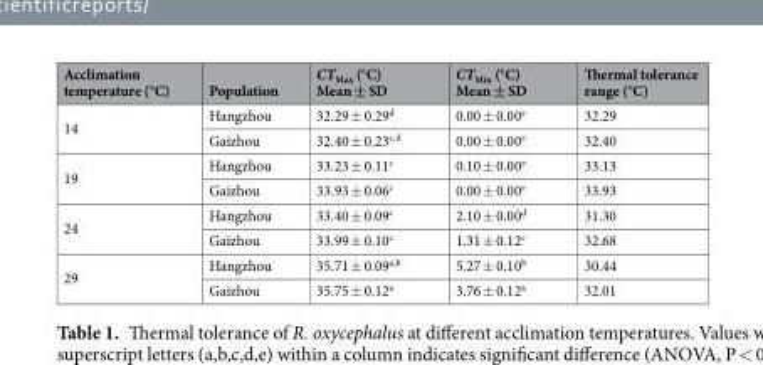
<table><thead><tr><td>Acclimation temperature (°C)</td><td>Population</td><td>CT<sub>Max</sub> (°C) Mean ± SD</td><td>CT<sub>Min</sub> (°C) Mean ± SD</td><td>Thermal tolerance range (°C)</td></tr></thead><tbody><tr><td rowspan="2">14</td><td>Hangzhou</td><td>32.29 ± 0.29<sup>d</sup></td><td>0.00 ± 0.00<sup>e</sup></td><td>32.29</td></tr><tr><td>Gaizhou</td><td>32.40 ± 0.23<sup>c,d</sup></td><td>0.00 ± 0.00<sup>e</sup></td><td>32.40</td></tr><tr><td rowspan="2">19</td><td>Hangzhou</td><td>33.23 ± 0.11<sup>c</sup></td><td>0.10 ± 0.00<sup>e</sup></td><td>33.13</td></tr><tr><td>Gaizhou</td><td>33.93 ± 0.06<sup>c</sup></td><td>0.00 ± 0.00<sup>e</sup></td><td>33.93</td></tr><tr><td rowspan="2">24</td><td>Hangzhou</td><td>33.40 ± 0.09<sup>c</sup></td><td>2.10 ± 0.00<sup>d</sup></td><td>31.30</td></tr><tr><td>Gaizhou</td><td>33.99 ± 0.10<sup>c</sup></td><td>1.31 ± 0.12<sup>c</sup></td><td>32.68</td></tr><tr><td rowspan="2">29</td><td>Hangzhou</td><td>35.71 ± 0.09<sup>a,b</sup></td><td>5.27 ± 0.10<sup>b</sup></td><td>30.44</td></tr><tr><td>Gaizhou</td><td>35.75 ± 0.12<sup>a</sup></td><td>3.76 ± 0.12<sup>a</sup></td><td>32.01</td></tr></tbody></table>